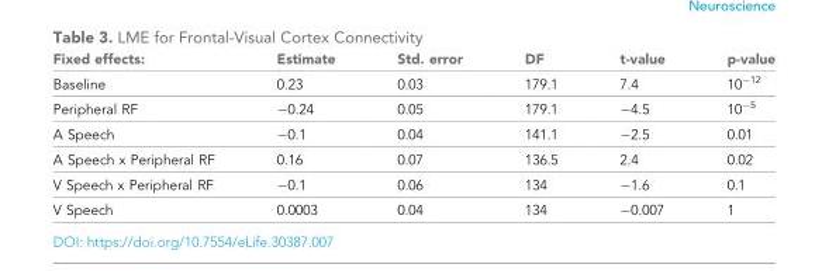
<table><thead><tr><td>Fixed effects:</td><td>Estimate</td><td>Std. error</td><td>DF</td><td>t-value</td><td>p-value</td></tr></thead><tbody><tr><td>Baseline</td><td>0.23</td><td>0.03</td><td>179.1</td><td>7.4</td><td>10<sup>−12</sup></td></tr><tr><td>Peripheral RF</td><td>−0.24</td><td>0.05</td><td>179.1</td><td>−4.5</td><td>10<sup>−5</sup></td></tr><tr><td>A Speech</td><td>−0.1</td><td>0.04</td><td>141.1</td><td>−2.5</td><td>0.01</td></tr><tr><td>A Speech x Peripheral RF</td><td>0.16</td><td>0.07</td><td>136.5</td><td>2.4</td><td>0.02</td></tr><tr><td>V Speech x Peripheral RF</td><td>−0.1</td><td>0.06</td><td>134</td><td>−1.6</td><td>0.1</td></tr><tr><td>V Speech</td><td>0.0003</td><td>0.04</td><td>134</td><td>−0.007</td><td>1</td></tr></tbody></table>